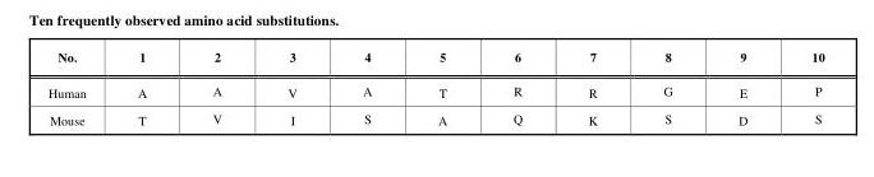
<table><thead><tr><td>No.</td><td>1</td><td>2</td><td>3</td><td>4</td><td>5</td><td>6</td><td>7</td><td>8</td><td>9</td><td>10</td></tr></thead><tbody><tr><td>Human</td><td>A</td><td>A</td><td>V</td><td>A</td><td>T</td><td>R</td><td>R</td><td>G</td><td>E</td><td>P</td></tr><tr><td>Mouse</td><td>T</td><td>V</td><td>I</td><td>S</td><td>A</td><td>Q</td><td>K</td><td>S</td><td>D</td><td>S</td></tr></tbody></table>